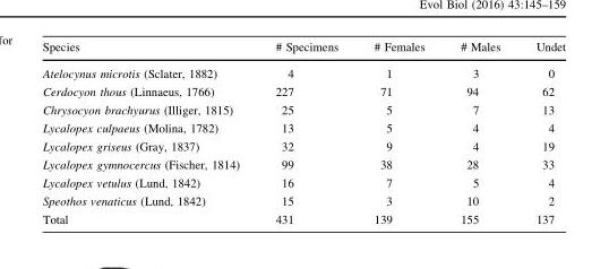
<table><thead><tr><td>Species</td><td># Specimens</td><td># Females</td><td># Males</td><td>Undet</td></tr></thead><tbody><tr><td>Atelocynus microtis (Sclater, 1882)</td><td>4</td><td>1</td><td>3</td><td>0</td></tr><tr><td>Cerdocyon thous (Linnaeus, 1766)</td><td>227</td><td>71</td><td>94</td><td>62</td></tr><tr><td>Chrysocyon brachyurus (Illiger, 1815)</td><td>25</td><td>5</td><td>7</td><td>13</td></tr><tr><td>Lycalopex culpaeus (Molina, 1782)</td><td>13</td><td>5</td><td>4</td><td>4</td></tr><tr><td>Lycalopex griseus (Gray, 1837)</td><td>32</td><td>9</td><td>4</td><td>19</td></tr><tr><td>Lycalopex gymnocercus (Fischer, 1814)</td><td>99</td><td>38</td><td>28</td><td>33</td></tr><tr><td>Lycalopex vetulus (Lund, 1842)</td><td>16</td><td>7</td><td>5</td><td>4</td></tr><tr><td>Speothos venaticus (Lund, 1842)</td><td>15</td><td>3</td><td>10</td><td>2</td></tr><tr><td>Total</td><td>431</td><td>139</td><td>155</td><td>137</td></tr></tbody></table>